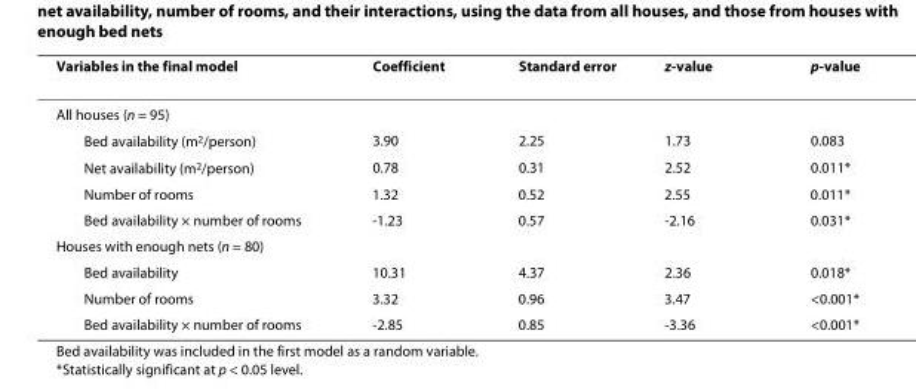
<table><thead><tr><td>Variables in the final model</td><td>Coefficient</td><td>Standard error</td><td>z-value</td><td>p-value</td></tr></thead><tbody><tr><td colspan="5">All houses (n = 95)</td></tr><tr><td>Bed availability (m<sup>2</sup>/person)</td><td>3.90</td><td>2.25</td><td>1.73</td><td>0.083</td></tr><tr><td>Net availability (m<sup>2</sup>/person)</td><td>0.78</td><td>0.31</td><td>2.52</td><td>0.011*</td></tr><tr><td>Number of rooms</td><td>1.32</td><td>0.52</td><td>2.55</td><td>0.011*</td></tr><tr><td>Bed availability × number of rooms</td><td>-1.23</td><td>0.57</td><td>-2.16</td><td>0.031*</td></tr><tr><td colspan="5">Houses with enough nets (n = 80)</td></tr><tr><td>Bed availability</td><td>10.31</td><td>4.37</td><td>2.36</td><td>0.018*</td></tr><tr><td>Number of rooms</td><td>3.32</td><td>0.96</td><td>3.47</td><td>&lt;0.001*</td></tr><tr><td>Bed availability × number of rooms</td><td>-2.85</td><td>0.85</td><td>-3.36</td><td>&lt;0.001*</td></tr></tbody></table>